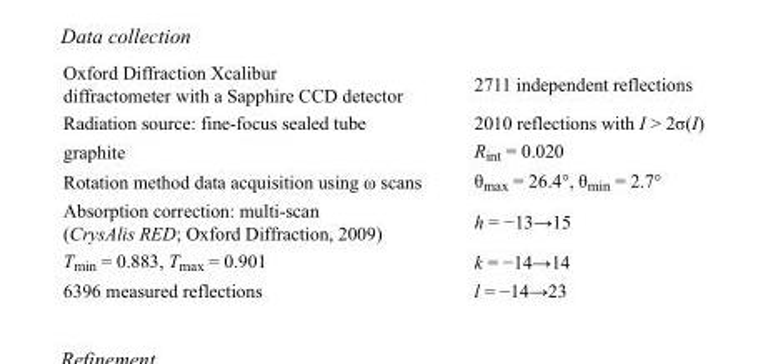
<table><tbody><tr><td>Oxford Diffraction Xcalibur diffractometer with a Sapphire CCD detector</td><td>2711 independent reflections</td></tr><tr><td>Radiation source: fine-focus sealed tube</td><td>2010 reflections with I &gt; 2σ(I)</td></tr><tr><td>graphite</td><td>R<sub>int</sub> = 0.020</td></tr><tr><td>Rotation method data acquisition using ω scans</td><td>θ<sub>max</sub> = 26.4°, θ<sub>min</sub> = 2.7°</td></tr><tr><td>Absorption correction: multi-scan (CrysAlis RED; Oxford Diffraction, 2009)</td><td>h = −13→15</td></tr><tr><td>T<sub>min</sub> = 0.883, T<sub>max</sub> = 0.901</td><td>k = −14→14</td></tr><tr><td>6396 measured reflections</td><td>l = −14→23</td></tr></tbody></table>